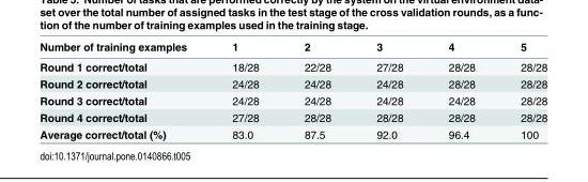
<table><thead><tr><td>Number of training examples</td><td>1</td><td>2</td><td>3</td><td>4</td><td>5</td></tr></thead><tbody><tr><td>Round 1 correct/total</td><td>18/28</td><td>22/28</td><td>27/28</td><td>28/28</td><td>28/28</td></tr><tr><td>Round 2 correct/total</td><td>24/28</td><td>24/28</td><td>24/28</td><td>28/28</td><td>28/28</td></tr><tr><td>Round 3 correct/total</td><td>24/28</td><td>24/28</td><td>24/28</td><td>24/28</td><td>28/28</td></tr><tr><td>Round 4 correct/total</td><td>27/28</td><td>28/28</td><td>28/28</td><td>28/28</td><td>28/28</td></tr><tr><td>Average correct/total (%)</td><td>83.0</td><td>87.5</td><td>92.0</td><td>96.4</td><td>100</td></tr></tbody></table>